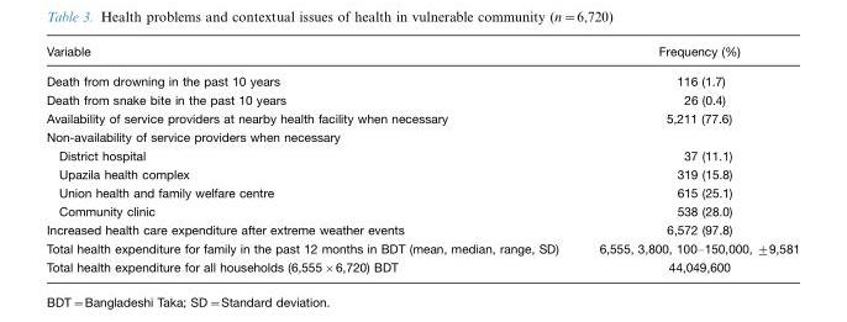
<table><thead><tr><td>Variable</td><td>Frequency (%)</td></tr></thead><tbody><tr><td>Death from drowning in the past 10 years</td><td>116 (1.7)</td></tr><tr><td>Death from snake bite in the past 10 years</td><td>26 (0.4)</td></tr><tr><td>Availability of service providers at nearby health facility when necessary</td><td>5,211 (77.6)</td></tr><tr><td colspan="2">Non-availability of service providers when necessary</td></tr><tr><td>District hospital</td><td>37 (11.1)</td></tr><tr><td>Upazila health complex</td><td>319 (15.8)</td></tr><tr><td>Union health and family welfare centre</td><td>615 (25.1)</td></tr><tr><td>Community clinic</td><td>538 (28.0)</td></tr><tr><td>Increased health care expenditure after extreme weather events</td><td>6,572 (97.8)</td></tr><tr><td>Total health expenditure for family in the past 12 months in BDT (mean, median, range, SD)</td><td>6,555, 3,800, 100–150,000, ±9,581</td></tr><tr><td>Total health expenditure for all households (6,555×6,720) BDT</td><td>44,049,600</td></tr></tbody></table>